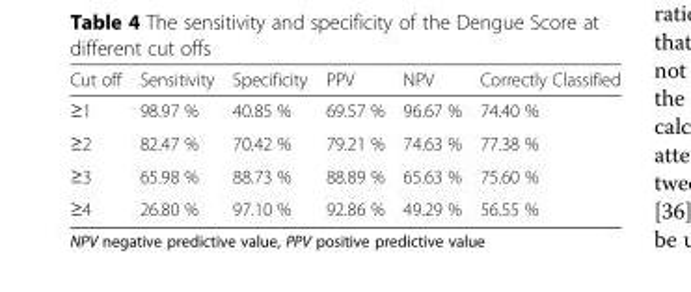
<table><thead><tr><td>Cut off</td><td>Sensitivity</td><td>Specificity</td><td>PPV</td><td>NPV</td><td>Correctly Classified</td></tr></thead><tbody><tr><td>≥1</td><td>98.97 %</td><td>40.85 %</td><td>69.57 %</td><td>96.67 %</td><td>74.40 %</td></tr><tr><td>≥2</td><td>82.47 %</td><td>70.42 %</td><td>79.21 %</td><td>74.63 %</td><td>77.38 %</td></tr><tr><td>≥3</td><td>65.98 %</td><td>88.73 %</td><td>88.89 %</td><td>65.63 %</td><td>75.60 %</td></tr><tr><td>≥4</td><td>26.80 %</td><td>97.10 %</td><td>92.86 %</td><td>49.29 %</td><td>56.55 %</td></tr></tbody></table>